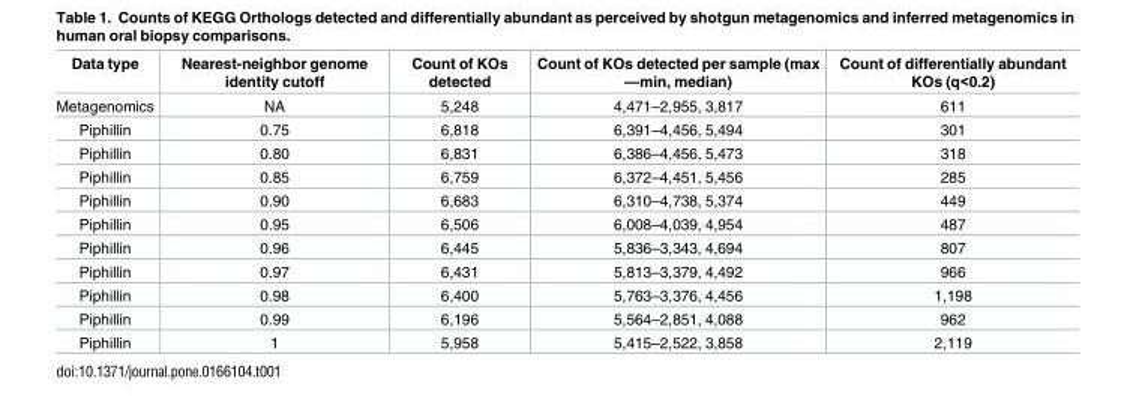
<table><thead><tr><td>Data type</td><td>Nearest-neighbor genome identity cutoff</td><td>Count of KOs detected</td><td>Count of KOs detected per sample (max —min, median)</td><td>Count of differentially abundant KOs (q&lt;0.2)</td></tr></thead><tbody><tr><td>Metagenomics</td><td>NA</td><td>5,248</td><td>4,471–2,955, 3,817</td><td>611</td></tr><tr><td>Piphillin</td><td>0.75</td><td>6,818</td><td>6,391–4,456, 5,494</td><td>301</td></tr><tr><td>Piphillin</td><td>0.80</td><td>6,831</td><td>6,386–4,456, 5,473</td><td>318</td></tr><tr><td>Piphillin</td><td>0.85</td><td>6,759</td><td>6,372–4,451, 5,456</td><td>285</td></tr><tr><td>Piphillin</td><td>0.90</td><td>6,683</td><td>6,310–4,738, 5,374</td><td>449</td></tr><tr><td>Piphillin</td><td>0.95</td><td>6,506</td><td>6,008–4,039, 4,954</td><td>487</td></tr><tr><td>Piphillin</td><td>0.96</td><td>6,445</td><td>5,836–3,343, 4,694</td><td>807</td></tr><tr><td>Piphillin</td><td>0.97</td><td>6,431</td><td>5,813–3,379, 4,492</td><td>966</td></tr><tr><td>Piphillin</td><td>0.98</td><td>6,400</td><td>5,763–3,376, 4,456</td><td>1,198</td></tr><tr><td>Piphillin</td><td>0.99</td><td>6,196</td><td>5,564–2,851, 4,088</td><td>962</td></tr><tr><td>Piphillin</td><td>1</td><td>5,958</td><td>5,415–2,522, 3,858</td><td>2,119</td></tr></tbody></table>